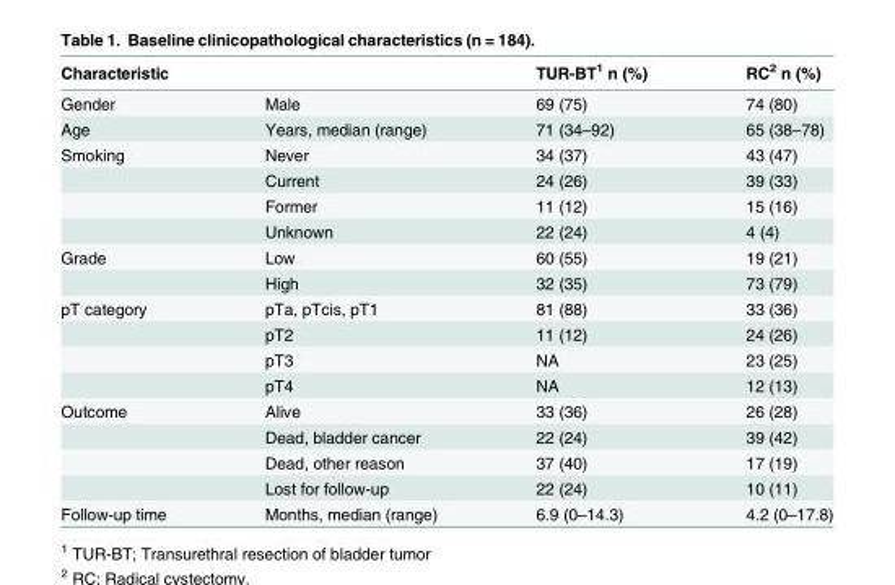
<table><thead><tr><td colspan="2">Characteristic</td><td rowspan="2">TUR-BT<sup>1</sup> n (%) 69 (75)</td><td rowspan="2">RC<sup>2</sup> n (%) 74 (80)</td></tr><tr><td>Gender</td><td>Male</td></tr></thead><tbody><tr><td>Age</td><td>Years, median (range)</td><td>71 (34–92)</td><td>65 (38–78)</td></tr><tr><td rowspan="4">Smoking</td><td>Never</td><td>34 (37)</td><td>43 (47)</td></tr><tr><td>Current</td><td>24 (26)</td><td>39 (33)</td></tr><tr><td>Former</td><td>11 (12)</td><td>15 (16)</td></tr><tr><td>Unknown</td><td>22 (24)</td><td>4 (4)</td></tr><tr><td rowspan="2">Grade</td><td>Low</td><td>60 (55)</td><td>19 (21)</td></tr><tr><td>High</td><td>32 (35)</td><td>73 (79)</td></tr><tr><td rowspan="4">pT category</td><td>pTa, pTcis, pT1</td><td>81 (88)</td><td>33 (36)</td></tr><tr><td>pT2</td><td>11 (12)</td><td>24 (26)</td></tr><tr><td>pT3</td><td>NA</td><td>23 (25)</td></tr><tr><td>pT4</td><td>NA</td><td>12 (13)</td></tr><tr><td rowspan="4">Outcome</td><td>Alive</td><td>33 (36)</td><td>26 (28)</td></tr><tr><td>Dead, bladder cancer</td><td>22 (24)</td><td>39 (42)</td></tr><tr><td>Dead, other reason</td><td>37 (40)</td><td>17 (19)</td></tr><tr><td>Lost for follow-up</td><td>22 (24)</td><td>10 (11)</td></tr><tr><td>Follow-up time</td><td>Months, median (range)</td><td>6.9 (0–14.3)</td><td>4.2 (0–17.8)</td></tr></tbody></table>